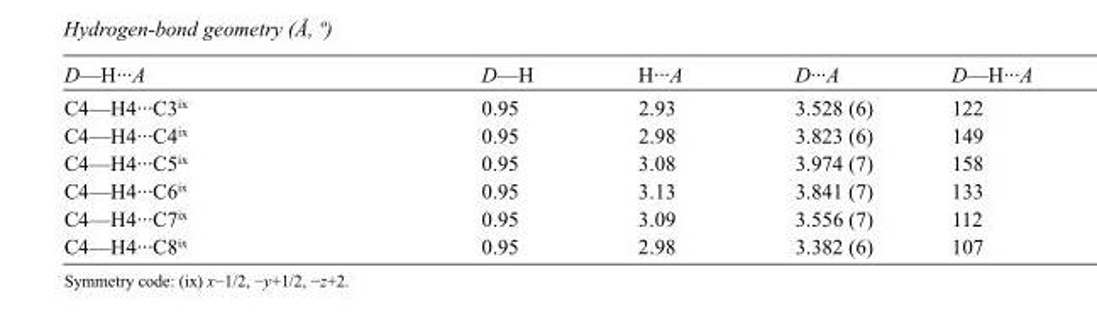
<table><tbody><tr><td>D—H···A</td><td>D—H</td><td>H···A</td><td>D···A</td><td>D—H···A</td></tr><tr><td>C4—H4···C3<sup>ix</sup></td><td>0.95</td><td>2.93</td><td>3.528 (6)</td><td>122</td></tr><tr><td>C4—H4···C4<sup>ix</sup></td><td>0.95</td><td>2.98</td><td>3.823 (6)</td><td>149</td></tr><tr><td>C4—H4···C5<sup>ix</sup></td><td>0.95</td><td>3.08</td><td>3.974 (7)</td><td>158</td></tr><tr><td>C4—H4···C6<sup>ix</sup></td><td>0.95</td><td>3.13</td><td>3.841 (7)</td><td>133</td></tr><tr><td>C4—H4···C7<sup>ix</sup></td><td>0.95</td><td>3.09</td><td>3.556 (7)</td><td>112</td></tr><tr><td>C4—H4···C8<sup>ix</sup></td><td>0.95</td><td>2.98</td><td>3.382 (6)</td><td>107</td></tr></tbody></table>